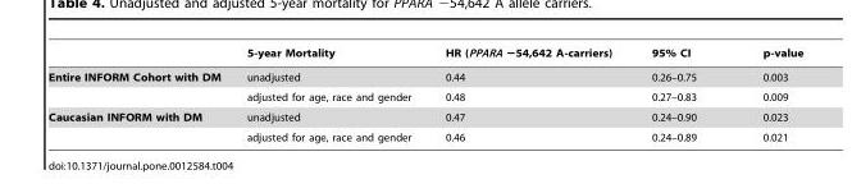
<table><thead><tr><td></td><td>5-year Mortality</td><td>HR (PPARA −54,642 A-carriers)</td><td>95% CI</td><td>p-value</td></tr></thead><tbody><tr><td rowspan="2">Entire INFORM Cohort with DM</td><td>unadjusted</td><td>0.44</td><td>0.26–0.75</td><td>0.003</td></tr><tr><td>adjusted for age, race and gender</td><td>0.48</td><td>0.27–0.83</td><td>0.009</td></tr><tr><td rowspan="2">Caucasian INFORM with DM</td><td>unadjusted</td><td>0.47</td><td>0.24–0.90</td><td>0.023</td></tr><tr><td>adjusted for age, race and gender</td><td>0.46</td><td>0.24–0.89</td><td>0.021</td></tr></tbody></table>